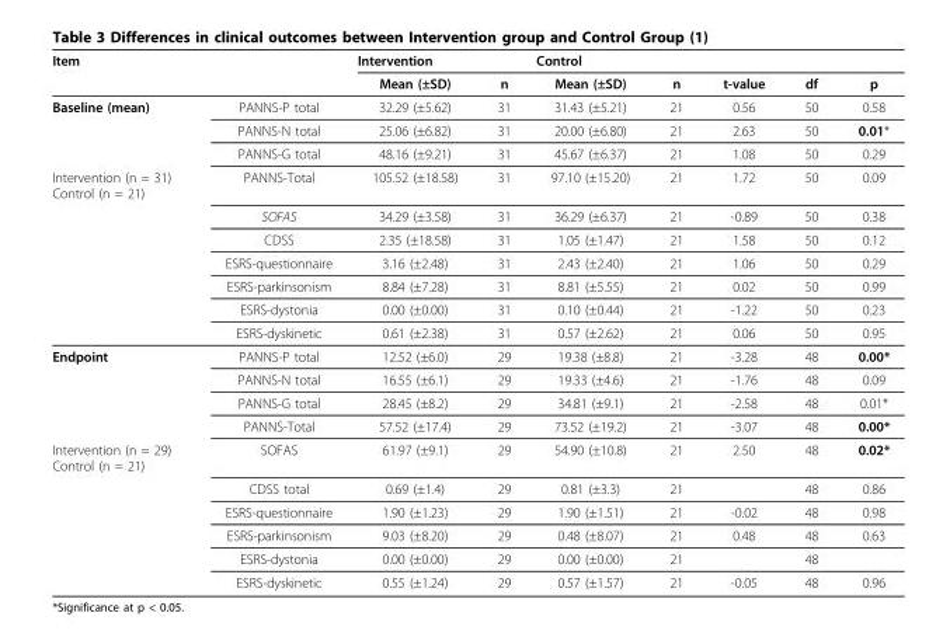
<table><thead><tr><td colspan="2">Item</td><td colspan="2">Intervention</td><td colspan="2">Control</td><td rowspan="2">t-value</td><td rowspan="2">df</td><td rowspan="2">p</td></tr><tr><td></td><td></td><td>Mean (±SD)</td><td>n</td><td>Mean (±SD)</td><td>n</td></tr></thead><tbody><tr><td rowspan="3">Baseline (mean)</td><td>PANNS-P total</td><td>32.29 (±5.62)</td><td>31</td><td>31.43 (±5.21)</td><td>21</td><td>0.56</td><td>50</td><td>0.58</td></tr><tr><td>PANNS-N total</td><td>25.06 (±6.82)</td><td>31</td><td>20.00 (±6.80)</td><td>21</td><td>2.63</td><td>50</td><td>0.01*</td></tr><tr><td>PANNS-G total</td><td>48.16 (±9.21)</td><td>31</td><td>45.67 (±6.37)</td><td>21</td><td>1.08</td><td>50</td><td>0.29</td></tr><tr><td rowspan="7">Intervention (n = 31) Control (n = 21)</td><td>PANNS-Total</td><td>105.52 (±18.58)</td><td>31</td><td>97.10 (±15.20)</td><td>21</td><td>1.72</td><td>50</td><td>0.09</td></tr><tr><td>SOFAS</td><td>34.29 (±3.58)</td><td>31</td><td>36.29 (±6.37)</td><td>21</td><td>-0.89</td><td>50</td><td>0.38</td></tr><tr><td>CDSS</td><td>2.35 (±18.58)</td><td>31</td><td>1.05 (±1.47)</td><td>21</td><td>1.58</td><td>50</td><td>0.12</td></tr><tr><td>ESRS-questionnaire</td><td>3.16 (±2.48)</td><td>31</td><td>2.43 (±2.40)</td><td>21</td><td>1.06</td><td>50</td><td>0.29</td></tr><tr><td>ESRS-parkinsonism</td><td>8.84 (±7.28)</td><td>31</td><td>8.81 (±5.55)</td><td>21</td><td>0.02</td><td>50</td><td>0.99</td></tr><tr><td>ESRS-dystonia</td><td>0.00 (±0.00)</td><td>31</td><td>0.10 (±0.44)</td><td>21</td><td>-1.22</td><td>50</td><td>0.23</td></tr><tr><td>ESRS-dyskinetic</td><td>0.61 (±2.38)</td><td>31</td><td>0.57 (±2.62)</td><td>21</td><td>0.06</td><td>50</td><td>0.95</td></tr><tr><td rowspan="4">Endpoint</td><td>PANNS-P total</td><td>12.52 (±6.0)</td><td>29</td><td>19.38 (±8.8)</td><td>21</td><td>-3.28</td><td>48</td><td>0.00*</td></tr><tr><td>PANNS-N total</td><td>16.55 (±6.1)</td><td>29</td><td>19.33 (±4.6)</td><td>21</td><td>-1.76</td><td>48</td><td>0.09</td></tr><tr><td>PANNS-G total</td><td>28.45 (±8.2)</td><td>29</td><td>34.81 (±9.1)</td><td>21</td><td>-2.58</td><td>48</td><td>0.01*</td></tr><tr><td>PANNS-Total</td><td>57.52 (±17.4)</td><td>29</td><td>73.52 (±19.2)</td><td>21</td><td>-3.07</td><td>48</td><td>0.00*</td></tr><tr><td rowspan="6">Intervention (n = 29) Control (n = 21)</td><td>SOFAS</td><td>61.97 (±9.1)</td><td>29</td><td>54.90 (±10.8)</td><td>21</td><td>2.50</td><td>48</td><td>0.02*</td></tr><tr><td>CDSS total</td><td>0.69 (±1.4)</td><td>29</td><td>0.81 (±3.3)</td><td>21</td><td></td><td>48</td><td>0.86</td></tr><tr><td>ESRS-questionnaire</td><td>1.90 (±1.23)</td><td>29</td><td>1.90 (±1.51)</td><td>21</td><td>-0.02</td><td>48</td><td>0.98</td></tr><tr><td>ESRS-parkinsonism</td><td>9.03 (±8.20)</td><td>29</td><td>0.48 (±8.07)</td><td>21</td><td>0.48</td><td>48</td><td>0.63</td></tr><tr><td>ESRS-dystonia</td><td>0.00 (±0.00)</td><td>29</td><td>0.00 (±0.00)</td><td>21</td><td></td><td>48</td><td></td></tr><tr><td>ESRS-dyskinetic</td><td>0.55 (±1.24)</td><td>29</td><td>0.57 (±1.57)</td><td>21</td><td>-0.05</td><td>48</td><td>0.96</td></tr></tbody></table>